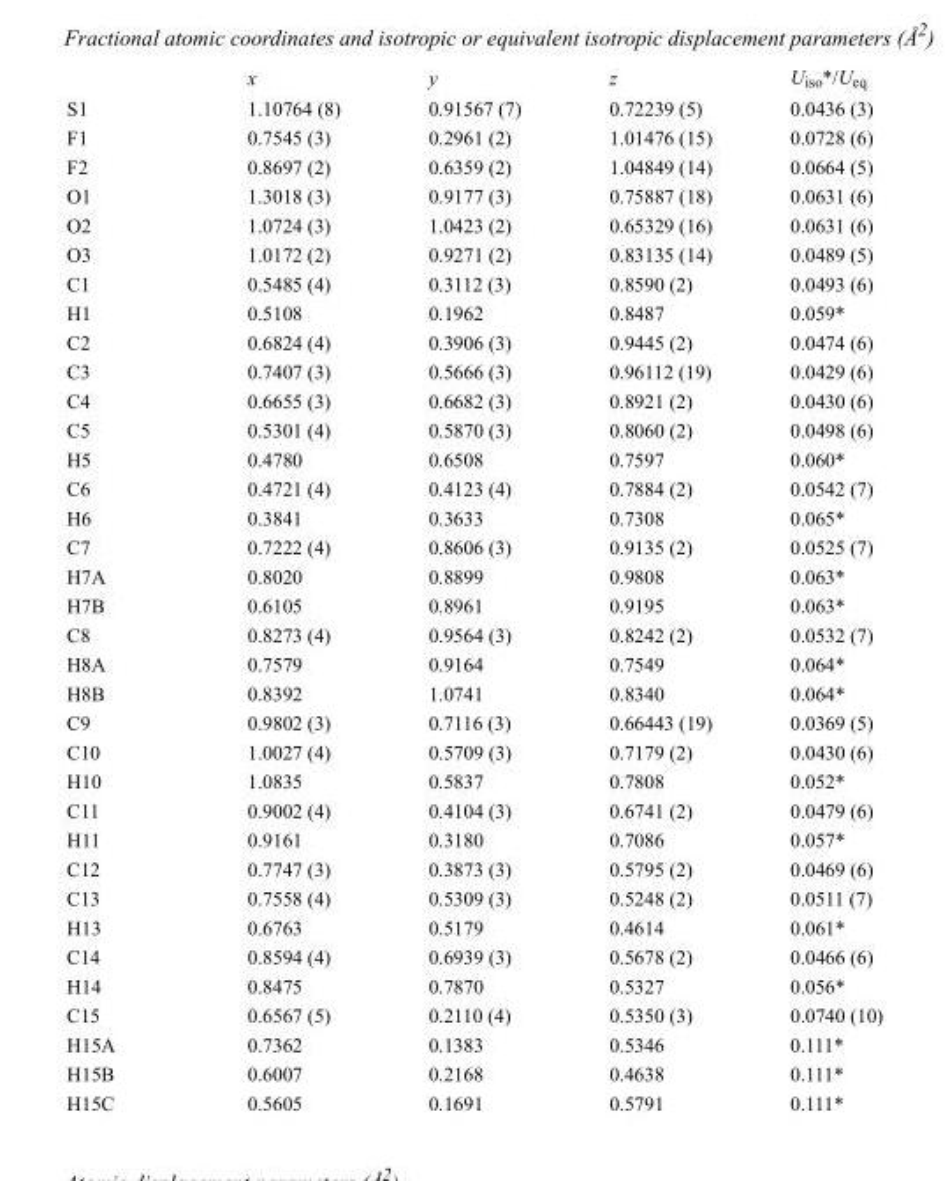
<table><thead><tr><td></td><td>x</td><td>y</td><td>z</td><td>U<sub>iso</sub>*/U<sub>eq</sub></td></tr></thead><tbody><tr><td>S1</td><td>1.10764 (8)</td><td>0.91567 (7)</td><td>0.72239 (5)</td><td>0.0436 (3)</td></tr><tr><td>F1</td><td>0.7545 (3)</td><td>0.2961 (2)</td><td>1.01476 (15)</td><td>0.0728 (6)</td></tr><tr><td>F2</td><td>0.8697 (2)</td><td>0.6359 (2)</td><td>1.04849 (14)</td><td>0.0664 (5)</td></tr><tr><td>O1</td><td>1.3018 (3)</td><td>0.9177 (3)</td><td>0.75887 (18)</td><td>0.0631 (6)</td></tr><tr><td>O2</td><td>1.0724 (3)</td><td>1.0423 (2)</td><td>0.65329 (16)</td><td>0.0631 (6)</td></tr><tr><td>O3</td><td>1.0172 (2)</td><td>0.9271 (2)</td><td>0.83135 (14)</td><td>0.0489 (5)</td></tr><tr><td>C1</td><td>0.5485 (4)</td><td>0.3112 (3)</td><td>0.8590 (2)</td><td>0.0493 (6)</td></tr><tr><td>H1</td><td>0.5108</td><td>0.1962</td><td>0.8487</td><td>0.059*</td></tr><tr><td>C2</td><td>0.6824 (4)</td><td>0.3906 (3)</td><td>0.9445 (2)</td><td>0.0474 (6)</td></tr><tr><td>C3</td><td>0.7407 (3)</td><td>0.5666 (3)</td><td>0.96112 (19)</td><td>0.0429 (6)</td></tr><tr><td>C4</td><td>0.6655 (3)</td><td>0.6682 (3)</td><td>0.8921 (2)</td><td>0.0430 (6)</td></tr><tr><td>C5</td><td>0.5301 (4)</td><td>0.5870 (3)</td><td>0.8060 (2)</td><td>0.0498 (6)</td></tr><tr><td>H5</td><td>0.4780</td><td>0.6508</td><td>0.7597</td><td>0.060*</td></tr><tr><td>C6</td><td>0.4721 (4)</td><td>0.4123 (4)</td><td>0.7884 (2)</td><td>0.0542 (7)</td></tr><tr><td>H6</td><td>0.3841</td><td>0.3633</td><td>0.7308</td><td>0.065*</td></tr><tr><td>C7</td><td>0.7222 (4)</td><td>0.8606 (3)</td><td>0.9135 (2)</td><td>0.0525 (7)</td></tr><tr><td>H7A</td><td>0.8020</td><td>0.8899</td><td>0.9808</td><td>0.063*</td></tr><tr><td>H7B</td><td>0.6105</td><td>0.8961</td><td>0.9195</td><td>0.063*</td></tr><tr><td>C8</td><td>0.8273 (4)</td><td>0.9564 (3)</td><td>0.8242 (2)</td><td>0.0532 (7)</td></tr><tr><td>H8A</td><td>0.7579</td><td>0.9164</td><td>0.7549</td><td>0.064*</td></tr><tr><td>H8B</td><td>0.8392</td><td>1.0741</td><td>0.8340</td><td>0.064*</td></tr><tr><td>C9</td><td>0.9802 (3)</td><td>0.7116 (3)</td><td>0.66443 (19)</td><td>0.0369 (5)</td></tr><tr><td>C10</td><td>1.0027 (4)</td><td>0.5709 (3)</td><td>0.7179 (2)</td><td>0.0430 (6)</td></tr><tr><td>H10</td><td>1.0835</td><td>0.5837</td><td>0.7808</td><td>0.052*</td></tr><tr><td>C11</td><td>0.9002 (4)</td><td>0.4104 (3)</td><td>0.6741 (2)</td><td>0.0479 (6)</td></tr><tr><td>H11</td><td>0.9161</td><td>0.3180</td><td>0.7086</td><td>0.057*</td></tr><tr><td>C12</td><td>0.7747 (3)</td><td>0.3873 (3)</td><td>0.5795 (2)</td><td>0.0469 (6)</td></tr><tr><td>C13</td><td>0.7558 (4)</td><td>0.5309 (3)</td><td>0.5248 (2)</td><td>0.0511 (7)</td></tr><tr><td>H13</td><td>0.6763</td><td>0.5179</td><td>0.4614</td><td>0.061*</td></tr><tr><td>C14</td><td>0.8594 (4)</td><td>0.6939 (3)</td><td>0.5678 (2)</td><td>0.0466 (6)</td></tr><tr><td>H14</td><td>0.8475</td><td>0.7870</td><td>0.5327</td><td>0.056*</td></tr><tr><td>C15</td><td>0.6567 (5)</td><td>0.2110 (4)</td><td>0.5350 (3)</td><td>0.0740 (10)</td></tr><tr><td>H15A</td><td>0.7362</td><td>0.1383</td><td>0.5346</td><td>0.111*</td></tr><tr><td>H15B</td><td>0.6007</td><td>0.2168</td><td>0.4638</td><td>0.111*</td></tr><tr><td>H15C</td><td>0.5605</td><td>0.1691</td><td>0.5791</td><td>0.111*</td></tr></tbody></table>